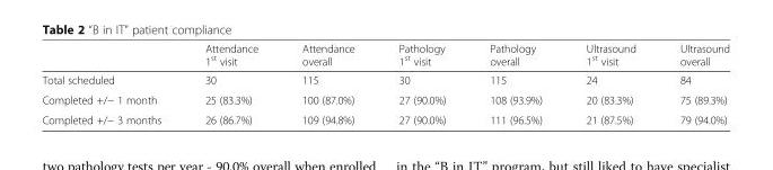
<table><thead><tr><td></td><td>Attendance 1<sup>st</sup> visit</td><td>Attendance overall</td><td>Pathology 1<sup>st</sup> visit</td><td>Pathology overall</td><td>Ultrasound 1<sup>st</sup> visit</td><td>Ultrasound overall</td></tr></thead><tbody><tr><td>Total scheduled</td><td>30</td><td>115</td><td>30</td><td>115</td><td>24</td><td>84</td></tr><tr><td>Completed +/− 1 month</td><td>25 (83.3%)</td><td>100 (87.0%)</td><td>27 (90.0%)</td><td>108 (93.9%)</td><td>20 (83.3%)</td><td>75 (89.3%)</td></tr><tr><td>Completed +/− 3 months</td><td>26 (86.7%)</td><td>109 (94.8%)</td><td>27 (90.0%)</td><td>111 (96.5%)</td><td>21 (87.5%)</td><td>79 (94.0%)</td></tr></tbody></table>